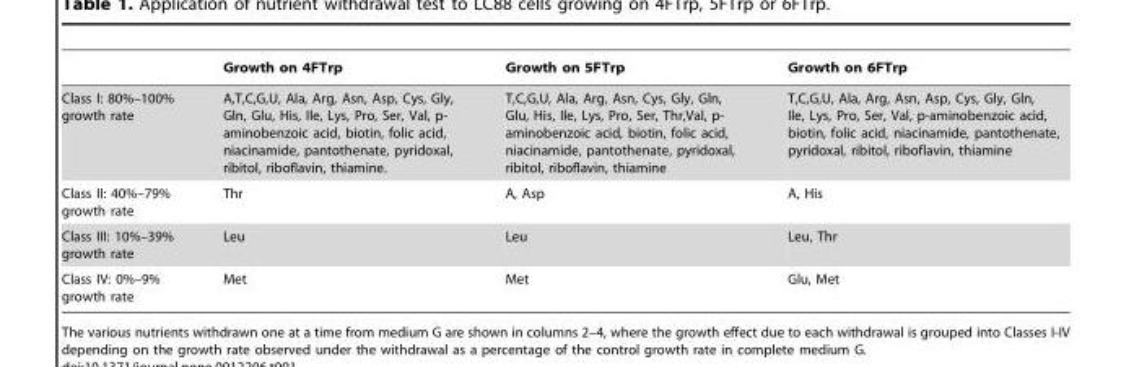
<table><thead><tr><td></td><td>Growth on 4FTrp</td><td>Growth on 5FTrp</td><td>Growth on 6FTrp</td></tr></thead><tbody><tr><td>Class I: 80%–100% growth rate</td><td>A,T,C,G,U, Ala, Arg, Asn, Asp, Cys, Gly, Gln, Glu, His, Ile, Lys, Pro, Ser, Val, p- aminobenzoic acid, biotin, folic acid, niacinamide, pantothenate, pyridoxal, ribitol, riboflavin, thiamine.</td><td>T,C,G,U, Ala, Arg, Asn, Cys, Gly, Gln, Glu, His, Ile, Lys, Pro, Ser, Thr,Val, p- aminobenzoic acid, biotin, folic acid, niacinamide, pantothenate, pyridoxal, ribitol, riboflavin, thiamine</td><td>T,C,G,U, Ala, Arg, Asn, Asp, Cys, Gly, Gln, Ile, Lys, Pro, Ser, Val, p-aminobenzoic acid, biotin, folic acid, niacinamide, pantothenate, pyridoxal, ribitol, riboflavin, thiamine</td></tr><tr><td>Class II: 40%–79% growth rate</td><td>Thr</td><td>A, Asp</td><td>A, His</td></tr><tr><td>Class III: 10%–39% growth rate</td><td>Leu</td><td>Leu</td><td>Leu, Thr</td></tr><tr><td>Class IV: 0%–9% growth rate</td><td>Met</td><td>Met</td><td>Glu, Met</td></tr></tbody></table>